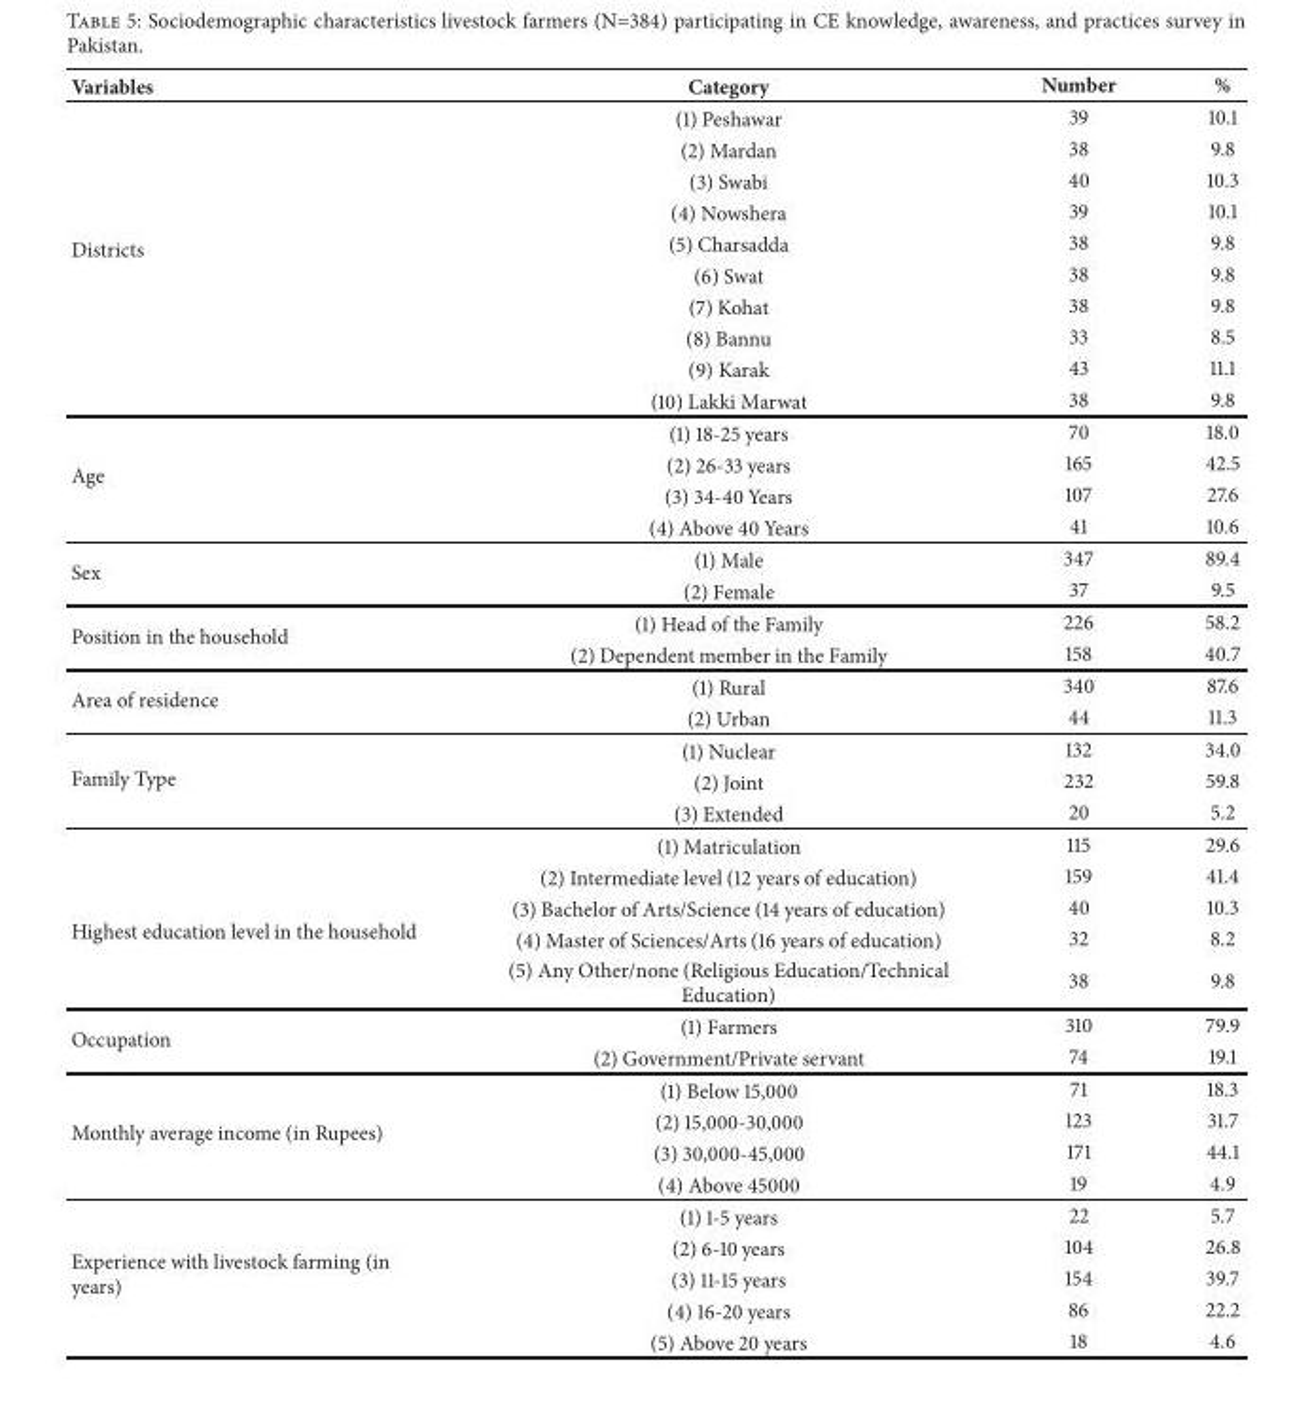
<table><thead><tr><td>Variables</td><td>Category</td><td>Number</td><td>%</td></tr></thead><tbody><tr><td rowspan="10">Districts</td><td>(1) Peshawar</td><td>39</td><td>10.1</td></tr><tr><td>(2) Mardan</td><td>38</td><td>9.8</td></tr><tr><td>(3) Swabi</td><td>40</td><td>10.3</td></tr><tr><td>(4) Nowshera</td><td>39</td><td>10.1</td></tr><tr><td>(5) Charsadda</td><td>38</td><td>9.8</td></tr><tr><td>(6) Swat</td><td>38</td><td>9.8</td></tr><tr><td>(7) Kohat</td><td>38</td><td>9.8</td></tr><tr><td>(8) Bannu</td><td>33</td><td>8.5</td></tr><tr><td>(9) Karak</td><td>43</td><td>11.1</td></tr><tr><td>(10) Lakki Marwat</td><td>38</td><td>9.8</td></tr><tr><td rowspan="4">Age</td><td>(1) 18-25 years</td><td>70</td><td>18.0</td></tr><tr><td>(2) 26-33 years</td><td>165</td><td>42.5</td></tr><tr><td>(3) 34-40 Years</td><td>107</td><td>27.6</td></tr><tr><td>(4) Above 40 Years</td><td>41</td><td>10.6</td></tr><tr><td rowspan="2">Sex</td><td>(1) Male</td><td>347</td><td>89.4</td></tr><tr><td>(2) Female</td><td>37</td><td>9.5</td></tr><tr><td rowspan="2">Position in the household</td><td>(1) Head of the Family</td><td>226</td><td>58.2</td></tr><tr><td>(2) Dependent member in the Family</td><td>158</td><td>40.7</td></tr><tr><td rowspan="2">Area of residence</td><td>(1) Rural</td><td>340</td><td>87.6</td></tr><tr><td>(2) Urban</td><td>44</td><td>11.3</td></tr><tr><td rowspan="3">Family Type</td><td>(1) Nuclear</td><td>132</td><td>34.0</td></tr><tr><td>(2) Joint</td><td>232</td><td>59.8</td></tr><tr><td>(3) Extended</td><td>20</td><td>5.2</td></tr><tr><td rowspan="5">Highest education level in the household</td><td>(1) Matriculation</td><td>115</td><td>29.6</td></tr><tr><td>(2) Intermediate level (12 years of education)</td><td>159</td><td>41.4</td></tr><tr><td>(3) Bachelor of Arts/Science (14 years of education)</td><td>40</td><td>10.3</td></tr><tr><td>(4) Master of Sciences/Arts (16 years of education)</td><td>32</td><td>8.2</td></tr><tr><td>(5) Any Other/none (Religious Education/Technical Education)</td><td>38</td><td>9.8</td></tr><tr><td rowspan="2">Occupation</td><td>(1) Farmers</td><td>310</td><td>79.9</td></tr><tr><td>(2) Government/Private servant</td><td>74</td><td>19.1</td></tr><tr><td rowspan="4">Monthly average income (in Rupees)</td><td>(1) Below 15,000</td><td>71</td><td>18.3</td></tr><tr><td>(2) 15,000-30,000</td><td>123</td><td>31.7</td></tr><tr><td>(3) 30,000-45,000</td><td>171</td><td>44.1</td></tr><tr><td>(4) Above 45000</td><td>19</td><td>4.9</td></tr><tr><td rowspan="5">Experience with livestock farming (in years)</td><td>(1) 1-5 years</td><td>22</td><td>5.7</td></tr><tr><td>(2) 6-10 years</td><td>104</td><td>26.8</td></tr><tr><td>(3) 11-15 years</td><td>154</td><td>39.7</td></tr><tr><td>(4) 16-20 years</td><td>86</td><td>22.2</td></tr><tr><td>(5) Above 20 years</td><td>18</td><td>4.6</td></tr></tbody></table>